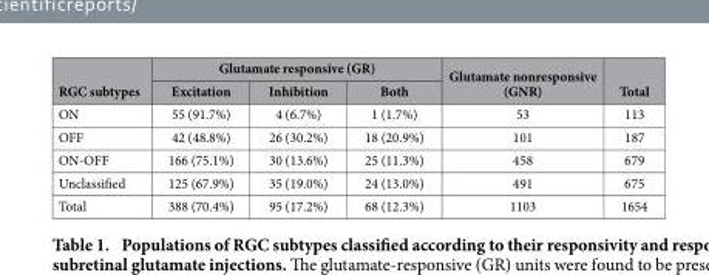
<table><thead><tr><td rowspan="2">RGC subtypes</td><td colspan="3">Glutamate responsive (GR)</td><td rowspan="2">Glutamate nonresponsive (GNR)</td><td rowspan="2">Total</td></tr><tr><td>Excitation</td><td>Inhibition</td><td>Both</td></tr></thead><tbody><tr><td>ON</td><td>55 (91.7%)</td><td>4 (6.7%)</td><td>1 (1.7%)</td><td>53</td><td>113</td></tr><tr><td>OFF</td><td>42 (48.8%)</td><td>26 (30.2%)</td><td>18 (20.9%)</td><td>101</td><td>187</td></tr><tr><td>ON-OFF</td><td>166 (75.1%)</td><td>30 (13.6%)</td><td>25 (11.3%)</td><td>458</td><td>679</td></tr><tr><td>Unclassified</td><td>125 (67.9%)</td><td>35 (19.0%)</td><td>24 (13.0%)</td><td>491</td><td>675</td></tr><tr><td>Total</td><td>388 (70.4%)</td><td>95 (17.2%)</td><td>68 (12.3%)</td><td>1103</td><td>1654</td></tr></tbody></table>